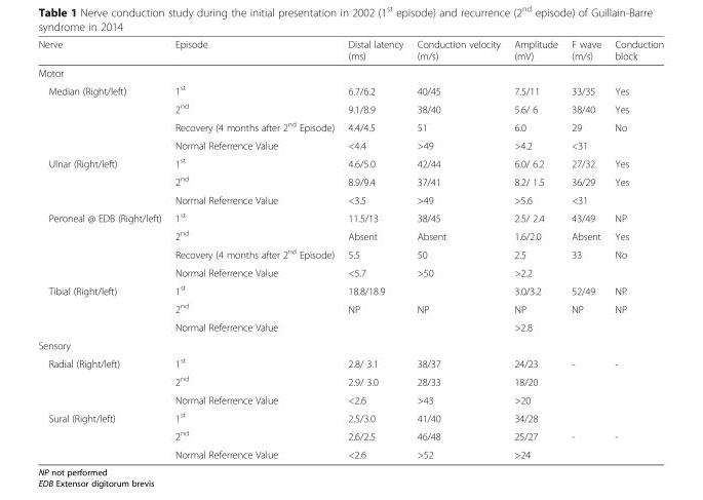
<table><thead><tr><td>Nerve</td><td>Episode</td><td>Distal latency (ms)</td><td>Conduction velocity (m/s)</td><td>Amplitude (mV)</td><td>F wave (m/s)</td><td>Conduction block</td></tr></thead><tbody><tr><td colspan="7">Motor</td></tr><tr><td rowspan="4">Median (Right/left)</td><td>1<sup>st</sup></td><td>6.7/6.2</td><td>40/45</td><td>7.5/11</td><td>33/35</td><td>Yes</td></tr><tr><td>2<sup>nd</sup></td><td>9.1/8.9</td><td>38/40</td><td>5.6/ 6</td><td>38/40</td><td>Yes</td></tr><tr><td>Recovery (4 months after 2<sup>nd</sup> Episode)</td><td>4.4/4.5</td><td>51</td><td>6.0</td><td>29</td><td>No</td></tr><tr><td>Normal Referrence Value</td><td>&lt;4.4</td><td>&gt;49</td><td>&gt;4.2</td><td>&lt;31</td><td></td></tr><tr><td rowspan="3">Ulnar (Right/left)</td><td>1<sup>st</sup></td><td>4.6/5.0</td><td>42/44</td><td>6.0/ 6.2</td><td>27/32</td><td>Yes</td></tr><tr><td>2<sup>nd</sup></td><td>8.9/9.4</td><td>37/41</td><td>8.2/ 1.5</td><td>36/29</td><td>Yes</td></tr><tr><td>Normal Referrence Value</td><td>&lt;3.5</td><td>&gt;49</td><td>&gt;5.6</td><td>&lt;31</td><td></td></tr><tr><td rowspan="4">Peroneal @ EDB (Right/left)</td><td>1<sup>st</sup></td><td>11.5/13</td><td>38/45</td><td>2.5/ 2.4</td><td>43/49</td><td>NP</td></tr><tr><td>2<sup>nd</sup></td><td>Absent</td><td>Absent</td><td>1.6/2.0</td><td>Absent</td><td>Yes</td></tr><tr><td>Recovery (4 months after 2<sup>nd</sup> Episode)</td><td>5.5</td><td>50</td><td>2.5</td><td>33</td><td>No</td></tr><tr><td>Normal Referrence Value</td><td>&lt;5.7</td><td>&gt;50</td><td>&gt;2.2</td><td></td><td></td></tr><tr><td rowspan="3">Tibial (Right/left)</td><td>1<sup>st</sup></td><td>18.8/18.9</td><td></td><td>3.0/3.2</td><td>52/49</td><td>NP</td></tr><tr><td>2<sup>nd</sup></td><td>NP</td><td>NP</td><td>NP</td><td>NP</td><td>NP</td></tr><tr><td>Normal Referrence Value</td><td></td><td></td><td>&gt;2.8</td><td></td><td></td></tr><tr><td colspan="7">Sensory</td></tr><tr><td rowspan="3">Radial (Right/left)</td><td>1<sup>st</sup></td><td>2.8/ 3.1</td><td>38/37</td><td>24/23</td><td>-</td><td>-</td></tr><tr><td>2<sup>nd</sup></td><td>2.9/ 3.0</td><td>28/33</td><td>18/20</td><td></td><td></td></tr><tr><td>Normal Referrence Value</td><td>&lt;2.6</td><td>&gt;43</td><td>&gt;20</td><td></td><td></td></tr><tr><td rowspan="3">Sural (Right/left)</td><td>1<sup>st</sup></td><td>2.5/3.0</td><td>41/40</td><td>34/28</td><td></td><td></td></tr><tr><td>2<sup>nd</sup></td><td>2.6/2.5</td><td>46/48</td><td>25/27</td><td>-</td><td>-</td></tr><tr><td>Normal Referrence Value</td><td>&lt;2.6</td><td>&gt;52</td><td>&gt;24</td><td></td><td></td></tr></tbody></table>